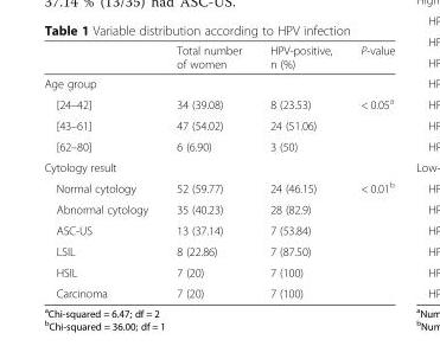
<table><thead><tr><td></td><td>Total number of women</td><td>HPV-positive, n (%)</td><td>P-value</td></tr></thead><tbody><tr><td colspan="4">Age group</td></tr><tr><td>[24–42]</td><td>34 (39.08)</td><td>8 (23.53)</td><td rowspan="3">&lt; 0.05<sup>a</sup></td></tr><tr><td>[43–61]</td><td>47 (54.02)</td><td>24 (51.06)</td></tr><tr><td>[62–80]</td><td>6 (6.90)</td><td>3 (50)</td></tr><tr><td colspan="4">Cytology result</td></tr><tr><td>Normal cytology</td><td>52 (59.77)</td><td>24 (46.15)</td><td rowspan="2">&lt; 0.01<sup>b</sup></td></tr><tr><td>Abnormal cytology</td><td>35 (40.23)</td><td>28 (82.9)</td></tr><tr><td>ASC-US</td><td>13 (37.14)</td><td>7 (53.84)</td><td></td></tr><tr><td>LSIL</td><td>8 (22.86)</td><td>7 (87.50)</td><td></td></tr><tr><td>HSIL</td><td>7 (20)</td><td>7 (100)</td><td></td></tr><tr><td>Carcinoma</td><td>7 (20)</td><td>7 (100)</td><td></td></tr></tbody></table>